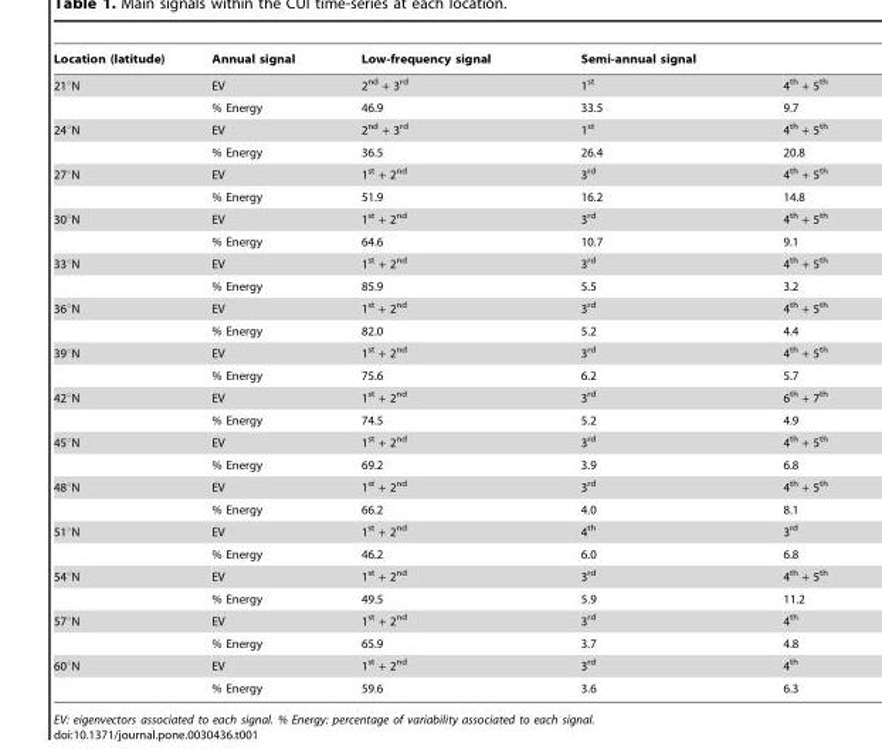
<table><thead><tr><td>Location (latitude)</td><td>Annual signal</td><td>Low-frequency signal</td><td>Semi-annual signal</td><td></td></tr></thead><tbody><tr><td rowspan="2">21°N</td><td>EV</td><td>2<sup>nd</sup> + 3<sup>rd</sup></td><td>1<sup>st</sup></td><td>4<sup>th</sup> + 5<sup>th</sup></td></tr><tr><td>% Energy</td><td>46.9</td><td>33.5</td><td>9.7</td></tr><tr><td rowspan="2">24°N</td><td>EV</td><td>2<sup>nd</sup> + 3<sup>rd</sup></td><td>1<sup>st</sup></td><td>4<sup>th</sup> + 5<sup>th</sup></td></tr><tr><td>% Energy</td><td>36.5</td><td>26.4</td><td>20.8</td></tr><tr><td rowspan="2">27°N</td><td>EV</td><td>1<sup>st</sup> + 2<sup>nd</sup></td><td>3<sup>rd</sup></td><td>4<sup>th</sup> + 5<sup>th</sup></td></tr><tr><td>% Energy</td><td>51.9</td><td>16.2</td><td>14.8</td></tr><tr><td rowspan="2">30°N</td><td>EV</td><td>1<sup>st</sup> + 2<sup>nd</sup></td><td>3<sup>rd</sup></td><td>4<sup>th</sup> + 5<sup>th</sup></td></tr><tr><td>% Energy</td><td>64.6</td><td>10.7</td><td>9.1</td></tr><tr><td rowspan="2">33°N</td><td>EV</td><td>1<sup>st</sup> + 2<sup>nd</sup></td><td>3<sup>rd</sup></td><td>4<sup>th</sup> + 5<sup>th</sup></td></tr><tr><td>% Energy</td><td>85.9</td><td>5.5</td><td>3.2</td></tr><tr><td rowspan="2">36°N</td><td>EV</td><td>1<sup>st</sup> + 2<sup>nd</sup></td><td>3<sup>rd</sup></td><td>4<sup>th</sup> + 5<sup>th</sup></td></tr><tr><td>% Energy</td><td>82.0</td><td>5.2</td><td>4.4</td></tr><tr><td rowspan="2">39°N</td><td>EV</td><td>1<sup>st</sup> + 2<sup>nd</sup></td><td>3<sup>rd</sup></td><td>4<sup>th</sup> + 5<sup>th</sup></td></tr><tr><td>% Energy</td><td>75.6</td><td>6.2</td><td>5.7</td></tr><tr><td rowspan="2">42°N</td><td>EV</td><td>1<sup>st</sup> + 2<sup>nd</sup></td><td>3<sup>rd</sup></td><td>6<sup>th</sup> + 7<sup>th</sup></td></tr><tr><td>% Energy</td><td>74.5</td><td>5.2</td><td>4.9</td></tr><tr><td rowspan="2">45°N</td><td>EV</td><td>1<sup>st</sup> + 2<sup>nd</sup></td><td>3<sup>rd</sup></td><td>4<sup>th</sup> + 5<sup>th</sup></td></tr><tr><td>% Energy</td><td>69.2</td><td>3.9</td><td>6.8</td></tr><tr><td rowspan="2">48°N</td><td>EV</td><td>1<sup>st</sup> + 2<sup>nd</sup></td><td>3<sup>rd</sup></td><td>4<sup>th</sup> + 5<sup>th</sup></td></tr><tr><td>% Energy</td><td>66.2</td><td>4.0</td><td>8.1</td></tr><tr><td rowspan="2">51°N</td><td>EV</td><td>1<sup>st</sup> + 2<sup>nd</sup></td><td>4<sup>th</sup></td><td>3<sup>rd</sup></td></tr><tr><td>% Energy</td><td>46.2</td><td>6.0</td><td>6.8</td></tr><tr><td rowspan="2">54°N</td><td>EV</td><td>1<sup>st</sup> + 2<sup>nd</sup></td><td>3<sup>rd</sup></td><td>4<sup>th</sup> + 5<sup>th</sup></td></tr><tr><td>% Energy</td><td>49.5</td><td>5.9</td><td>11.2</td></tr><tr><td rowspan="2">57°N</td><td>EV</td><td>1<sup>st</sup> + 2<sup>nd</sup></td><td>3<sup>rd</sup></td><td>4<sup>th</sup></td></tr><tr><td>% Energy</td><td>65.9</td><td>3.7</td><td>4.8</td></tr><tr><td rowspan="2">60°N</td><td>EV</td><td>1<sup>st</sup> + 2<sup>nd</sup></td><td>3<sup>rd</sup></td><td>4<sup>th</sup></td></tr><tr><td>% Energy</td><td>59.6</td><td>3.6</td><td>6.3</td></tr></tbody></table>